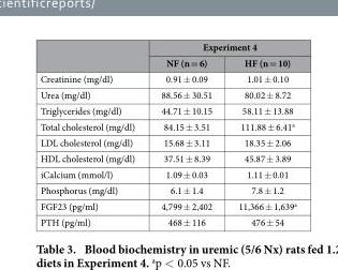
<table><thead><tr><td rowspan="2"></td><td colspan="2">Experiment 4</td></tr><tr><td>NF (n = 6)</td><td>HF (n = 10)</td></tr></thead><tbody><tr><td>Creatinine (mg/dl)</td><td>0.91 ± 0.09</td><td>1.01 ± 0.10</td></tr><tr><td>Urea (mg/dl)</td><td>88.56 ± 30.51</td><td>80.02 ± 8.72</td></tr><tr><td>Triglycerides (mg/dl)</td><td>44.71 ± 10.15</td><td>58.11 ± 13.88</td></tr><tr><td>Total cholesterol (mg/dl)</td><td>84.15 ± 3.51</td><td>111.88 ± 6.41<sup>a</sup></td></tr><tr><td>LDL cholesterol (mg/dl)</td><td>15.68 ± 3.11</td><td>18.35 ± 2.06</td></tr><tr><td>HDL cholesterol (mg/dl)</td><td>37.51 ± 8.39</td><td>45.87 ± 3.89</td></tr><tr><td>iCalcium (mmol/l)</td><td>1.09 ± 0.03</td><td>1.11 ± 0.01</td></tr><tr><td>Phosphorus (mg/dl)</td><td>6.1 ± 1.4</td><td>7.8 ± 1.2</td></tr><tr><td>FGF23 (pg/ml)</td><td>4,799 ± 2,402</td><td>11,366 ± 1,639<sup>a</sup></td></tr><tr><td>PTH (pg/ml)</td><td>468 ± 116</td><td>476 ± 54</td></tr></tbody></table>